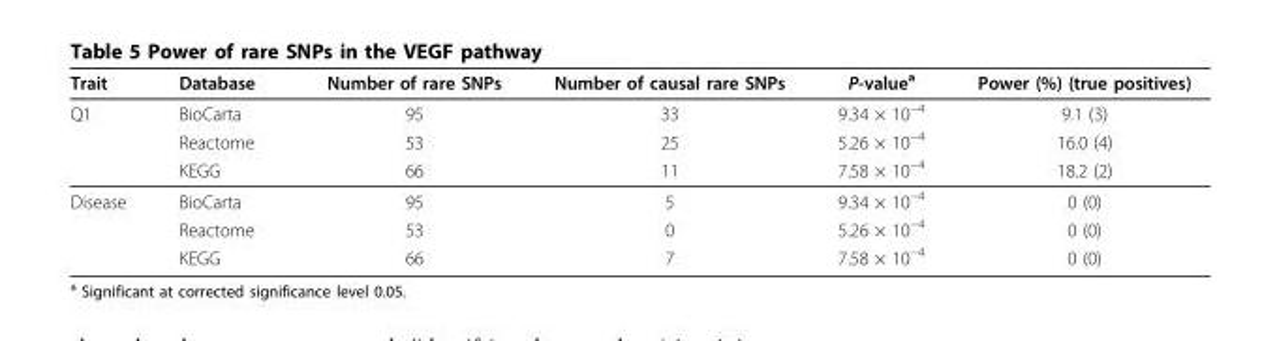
<table><thead><tr><td>Trait</td><td>Database</td><td>Number of rare SNPs</td><td>Number of causal rare SNPs</td><td>P-value<sup>a</sup></td><td>Power (%) (true positives)</td></tr></thead><tbody><tr><td rowspan="3">Q1</td><td>BioCarta</td><td>95</td><td>33</td><td>9.34 × 10<sup>−4</sup></td><td>9.1 (3)</td></tr><tr><td>Reactome</td><td>53</td><td>25</td><td>5.26 × 10<sup>−4</sup></td><td>16.0 (4)</td></tr><tr><td>KEGG</td><td>66</td><td>11</td><td>7.58 × 10<sup>−4</sup></td><td>18.2 (2)</td></tr><tr><td rowspan="3">Disease</td><td>BioCarta</td><td>95</td><td>5</td><td>9.34 × 10<sup>−4</sup></td><td>0 (0)</td></tr><tr><td>Reactome</td><td>53</td><td>0</td><td>5.26 × 10<sup>−4</sup></td><td>0 (0)</td></tr><tr><td>KEGG</td><td>66</td><td>7</td><td>7.58 × 10<sup>−4</sup></td><td>0 (0)</td></tr></tbody></table>